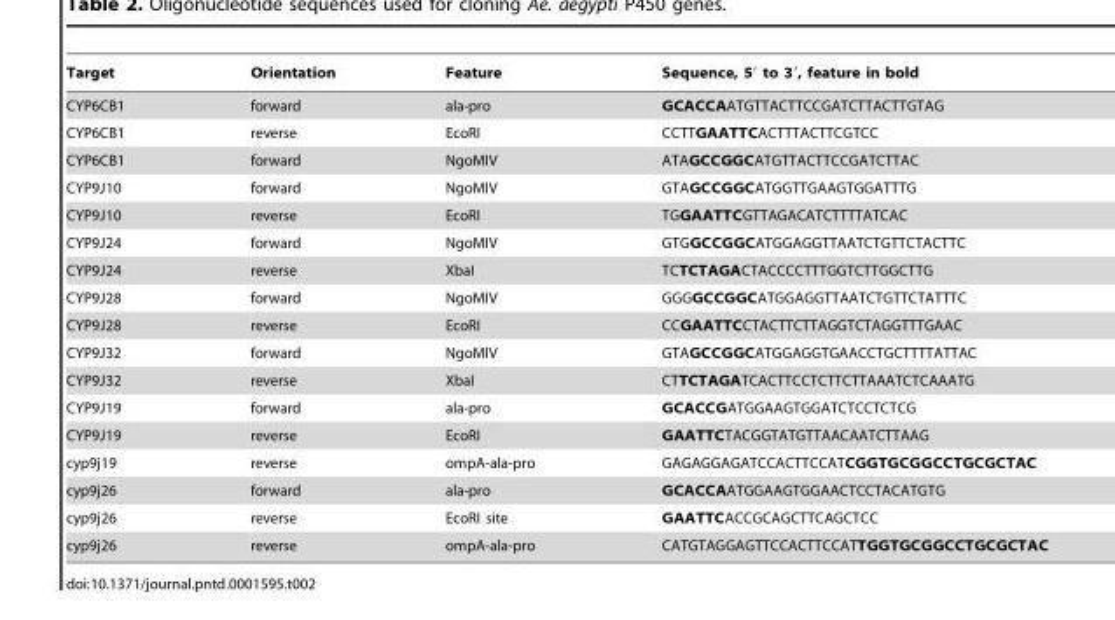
<table><thead><tr><td>Target</td><td>Orientation</td><td>Feature</td><td>Sequence, 5′ to 3′, feature in bold</td></tr></thead><tbody><tr><td>CYP6CB1</td><td>forward</td><td>ala-pro</td><td>GCACCAATGTTACTTCCGATCTTACTTGTAG</td></tr><tr><td>CYP6CB1</td><td>reverse</td><td>EcoRI</td><td>CCTTGAATTCACTTTACTTCGTCC</td></tr><tr><td>CYP6CB1</td><td>forward</td><td>NgoMIV</td><td>ATAGCCGGCATGTTACTTCCGATCTTAC</td></tr><tr><td>CYP9J10</td><td>forward</td><td>NgoMIV</td><td>GTAGCCGGCATGGTTGAAGTGGATTTG</td></tr><tr><td>CYP9J10</td><td>reverse</td><td>EcoRI</td><td>TGGAATTCGTTAGACATCTTTTATCAC</td></tr><tr><td>CYP9J24</td><td>forward</td><td>NgoMIV</td><td>GTGGCCGGCATGGAGGTTAATCTGTTCTACTTC</td></tr><tr><td>CYP9J24</td><td>reverse</td><td>XbaI</td><td>TCTCTAGACTACCCCTTTGGTCTTGGCTTG</td></tr><tr><td>CYP9J28</td><td>forward</td><td>NgoMIV</td><td>GGGGCCGGCATGGAGGTTAATCTGTTCTATTTC</td></tr><tr><td>CYP9J28</td><td>reverse</td><td>EcoRI</td><td>CCGAATTCCTACTTCTTAGGTCTAGGTTTGAAC</td></tr><tr><td>CYP9J32</td><td>forward</td><td>NgoMIV</td><td>GTAGCCGGCATGGAGGTGAACCTGCTTTTATTAC</td></tr><tr><td>CYP9J32</td><td>reverse</td><td>XbaI</td><td>CTTCTAGATCACTTCCTCTTCTTAAATCTCAAATG</td></tr><tr><td>CYP9J19</td><td>forward</td><td>ala-pro</td><td>GCACCGATGGAAGTGGATCTCCTCTCG</td></tr><tr><td>CYP9J19</td><td>reverse</td><td>EcoRI</td><td>GAATTCTACGGTATGTTAACAATCTTAAG</td></tr><tr><td>cyp9j19</td><td>reverse</td><td>ompA-ala-pro</td><td>GAGAGGAGATCCACTTCCATCGGTGCGGCCTGCGCTAC</td></tr><tr><td>cyp9j26</td><td>forward</td><td>ala-pro</td><td>GCACCAATGGAAGTGGAACTCCTACATGTG</td></tr><tr><td>cyp9j26</td><td>reverse</td><td>EcoRI site</td><td>GAATTCACCGCAGCTTCAGCTCC</td></tr><tr><td>cyp9j26</td><td>reverse</td><td>ompA-ala-pro</td><td>CATGTAGGAGTTCCACTTCCATTGGTGCGGCCTGCGCTAC</td></tr></tbody></table>